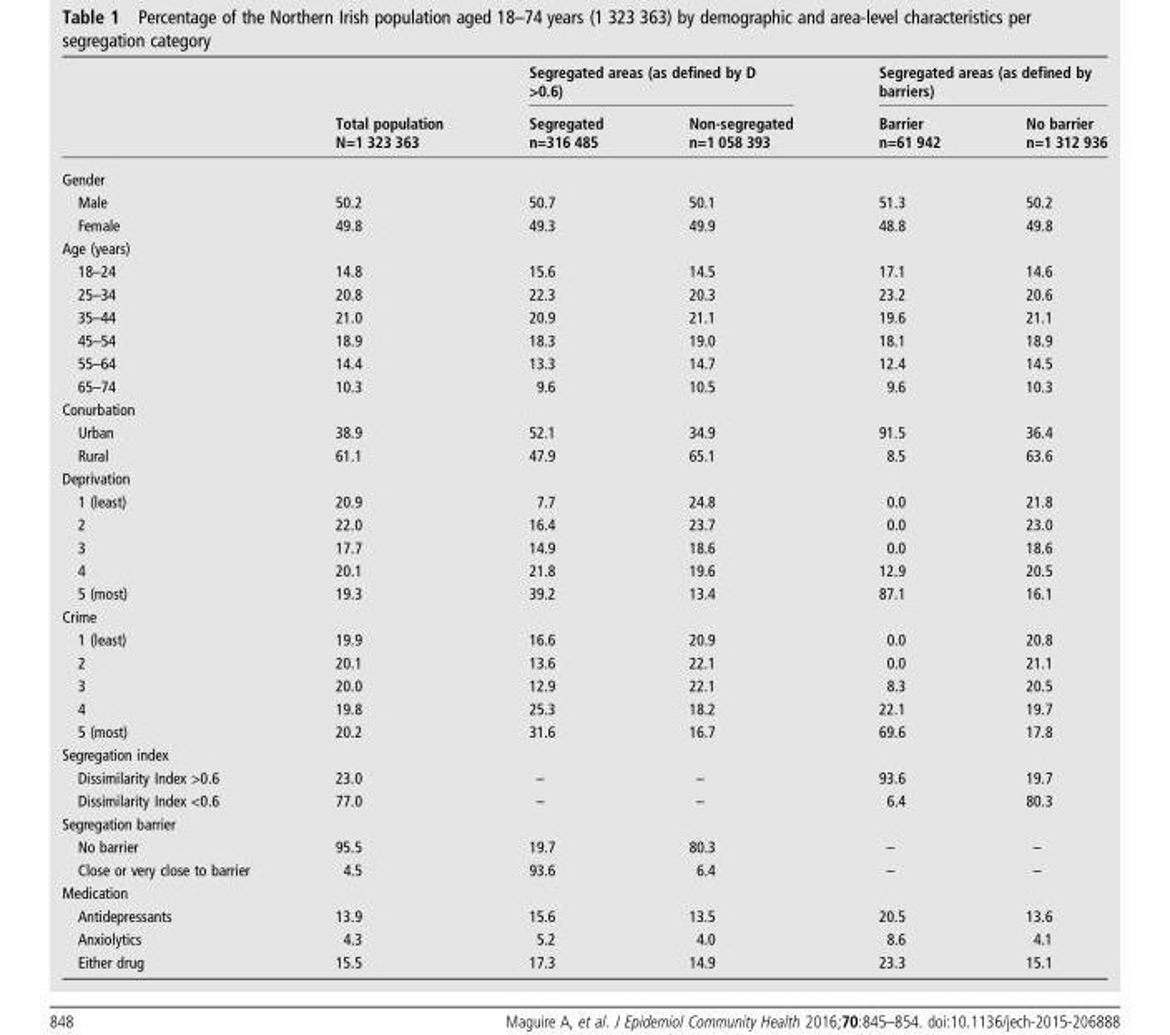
<table><thead><tr><td rowspan="2"></td><td rowspan="2">Total population N=1 323 363</td><td colspan="2">Segregated areas (as defined by D &gt;0.6)</td><td colspan="2">Segregated areas (as defined by barriers)</td></tr><tr><td>Segregated n=316 485</td><td>Non-segregated n=1 058 393</td><td>Barrier n=61 942</td><td>No barrier n=1 312 936</td></tr></thead><tbody><tr><td colspan="6">Gender</td></tr><tr><td>Male</td><td>50.2</td><td>50.7</td><td>50.1</td><td>51.3</td><td>50.2</td></tr><tr><td>Female</td><td>49.8</td><td>49.3</td><td>49.9</td><td>48.8</td><td>49.8</td></tr><tr><td colspan="6">Age (years)</td></tr><tr><td>18–24</td><td>14.8</td><td>15.6</td><td>14.5</td><td>17.1</td><td>14.6</td></tr><tr><td>25–34</td><td>20.8</td><td>22.3</td><td>20.3</td><td>23.2</td><td>20.6</td></tr><tr><td>35–44</td><td>21.0</td><td>20.9</td><td>21.1</td><td>19.6</td><td>21.1</td></tr><tr><td>45–54</td><td>18.9</td><td>18.3</td><td>19.0</td><td>18.1</td><td>18.9</td></tr><tr><td>55–64</td><td>14.4</td><td>13.3</td><td>14.7</td><td>12.4</td><td>14.5</td></tr><tr><td>65–74</td><td>10.3</td><td>9.6</td><td>10.5</td><td>9.6</td><td>10.3</td></tr><tr><td colspan="6">Conurbation</td></tr><tr><td>Urban</td><td>38.9</td><td>52.1</td><td>34.9</td><td>91.5</td><td>36.4</td></tr><tr><td>Rural</td><td>61.1</td><td>47.9</td><td>65.1</td><td>8.5</td><td>63.6</td></tr><tr><td colspan="6">Deprivation</td></tr><tr><td>1 (least)</td><td>20.9</td><td>7.7</td><td>24.8</td><td>0.0</td><td>21.8</td></tr><tr><td>2</td><td>22.0</td><td>16.4</td><td>23.7</td><td>0.0</td><td>23.0</td></tr><tr><td>3</td><td>17.7</td><td>14.9</td><td>18.6</td><td>0.0</td><td>18.6</td></tr><tr><td>4</td><td>20.1</td><td>21.8</td><td>19.6</td><td>12.9</td><td>20.5</td></tr><tr><td>5 (most)</td><td>19.3</td><td>39.2</td><td>13.4</td><td>87.1</td><td>16.1</td></tr><tr><td colspan="6">Crime</td></tr><tr><td>1 (least)</td><td>19.9</td><td>16.6</td><td>20.9</td><td>0.0</td><td>20.8</td></tr><tr><td>2</td><td>20.1</td><td>13.6</td><td>22.1</td><td>0.0</td><td>21.1</td></tr><tr><td>3</td><td>20.0</td><td>12.9</td><td>22.1</td><td>8.3</td><td>20.5</td></tr><tr><td>4</td><td>19.8</td><td>25.3</td><td>18.2</td><td>22.1</td><td>19.7</td></tr><tr><td>5 (most)</td><td>20.2</td><td>31.6</td><td>16.7</td><td>69.6</td><td>17.8</td></tr><tr><td colspan="6">Segregation index</td></tr><tr><td>Dissimilarity Index &gt;0.6</td><td>23.0</td><td>–</td><td>–</td><td>93.6</td><td>19.7</td></tr><tr><td>Dissimilarity Index &lt;0.6</td><td>77.0</td><td>–</td><td>–</td><td>6.4</td><td>80.3</td></tr><tr><td colspan="6">Segregation barrier</td></tr><tr><td>No barrier</td><td>95.5</td><td>19.7</td><td>80.3</td><td>–</td><td>–</td></tr><tr><td>Close or very close to barrier</td><td>4.5</td><td>93.6</td><td>6.4</td><td>–</td><td>–</td></tr><tr><td colspan="6">Medication</td></tr><tr><td>Antidepressants</td><td>13.9</td><td>15.6</td><td>13.5</td><td>20.5</td><td>13.6</td></tr><tr><td>Anxiolytics</td><td>4.3</td><td>5.2</td><td>4.0</td><td>8.6</td><td>4.1</td></tr><tr><td>Either drug</td><td>15.5</td><td>17.3</td><td>14.9</td><td>23.3</td><td>15.1</td></tr></tbody></table>